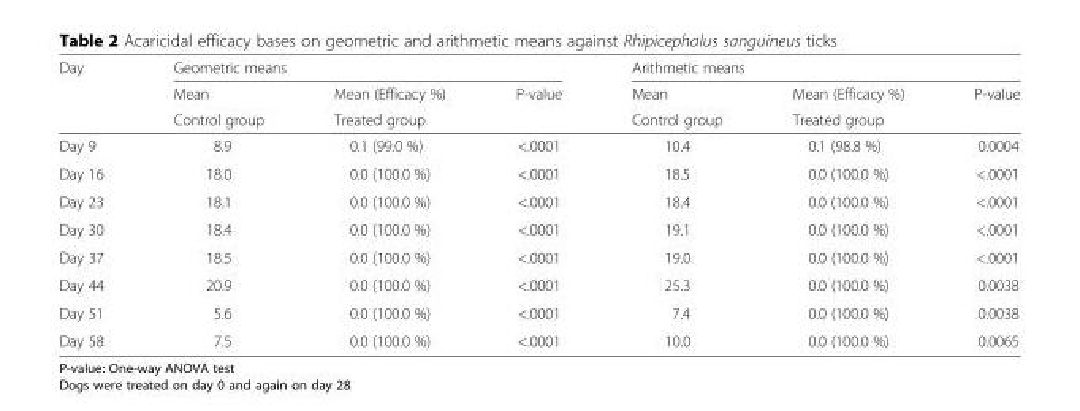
<table><thead><tr><td rowspan="3">Day</td><td colspan="3">Geometric means</td><td colspan="3">Arithmetic means</td></tr><tr><td rowspan="2">Mean Control group</td><td rowspan="2">Mean (Efficacy %) Treated group</td><td rowspan="2">P-value</td><td rowspan="2">Mean Control group</td><td rowspan="2">Mean (Efficacy %) Treated group</td><td rowspan="2">P-value</td></tr><tr></tr></thead><tbody><tr><td>Day 9</td><td>8.9</td><td>0.1 (99.0 %)</td><td>&lt;.0001</td><td>10.4</td><td>0.1 (98.8 %)</td><td>0.0004</td></tr><tr><td>Day 16</td><td>18.0</td><td>0.0 (100.0 %)</td><td>&lt;.0001</td><td>18.5</td><td>0.0 (100.0 %)</td><td>&lt;.0001</td></tr><tr><td>Day 23</td><td>18.1</td><td>0.0 (100.0 %)</td><td>&lt;.0001</td><td>18.4</td><td>0.0 (100.0 %)</td><td>&lt;.0001</td></tr><tr><td>Day 30</td><td>18.4</td><td>0.0 (100.0 %)</td><td>&lt;.0001</td><td>19.1</td><td>0.0 (100.0 %)</td><td>&lt;.0001</td></tr><tr><td>Day 37</td><td>18.5</td><td>0.0 (100.0 %)</td><td>&lt;.0001</td><td>19.0</td><td>0.0 (100.0 %)</td><td>&lt;.0001</td></tr><tr><td>Day 44</td><td>20.9</td><td>0.0 (100.0 %)</td><td>&lt;.0001</td><td>25.3</td><td>0.0 (100.0 %)</td><td>0.0038</td></tr><tr><td>Day 51</td><td>5.6</td><td>0.0 (100.0 %)</td><td>&lt;.0001</td><td>7.4</td><td>0.0 (100.0 %)</td><td>0.0038</td></tr><tr><td>Day 58</td><td>7.5</td><td>0.0 (100.0 %)</td><td>&lt;.0001</td><td>10.0</td><td>0.0 (100.0 %)</td><td>0.0065</td></tr></tbody></table>